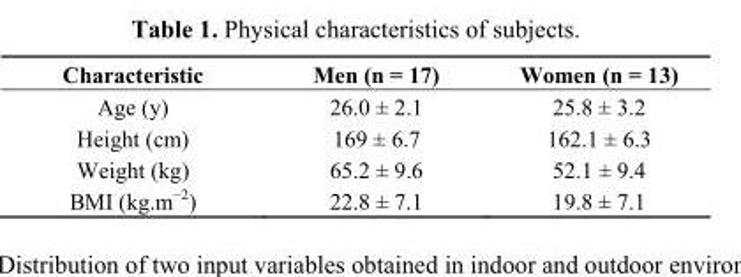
<table><thead><tr><td>Characteristic</td><td>Men (n = 17)</td><td>Women (n = 13)</td></tr></thead><tbody><tr><td>Age (y)</td><td>26.0 ± 2.1</td><td>25.8 ± 3.2</td></tr><tr><td>Height (cm)</td><td>169 ± 6.7</td><td>162.1 ± 6.3</td></tr><tr><td>Weight (kg)</td><td>65.2 ± 9.6</td><td>52.1 ± 9.4</td></tr><tr><td>BMI (kg.m<sup>−2</sup>)</td><td>22.8 ± 7.1</td><td>19.8 ± 7.1</td></tr></tbody></table>